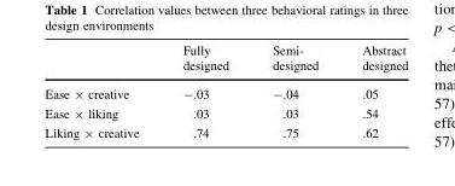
<table><thead><tr><td></td><td>Fully designed</td><td>Semi- designed</td><td>Abstract designed</td></tr></thead><tbody><tr><td>Ease × creative</td><td>-.03</td><td>-.04</td><td>.05</td></tr><tr><td>Ease × liking</td><td>.03</td><td>.03</td><td>.54</td></tr><tr><td>Liking × creative</td><td>.74</td><td>.75</td><td>.62</td></tr></tbody></table>